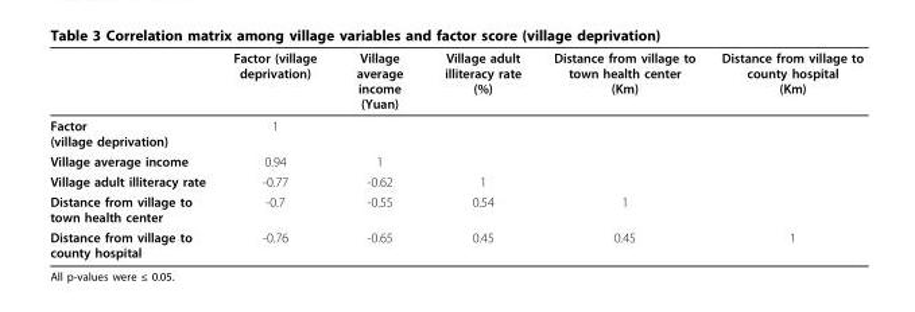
<table><thead><tr><td></td><td>Factor (village deprivation)</td><td>Village average income (Yuan)</td><td>Village adult illiteracy rate (%)</td><td>Distance from village to town health center (Km)</td><td>Distance from village to county hospital (Km)</td></tr></thead><tbody><tr><td>Factor (village deprivation)</td><td>1</td><td></td><td></td><td></td><td></td></tr><tr><td>Village average income</td><td>0.94</td><td>1</td><td></td><td></td><td></td></tr><tr><td>Village adult illiteracy rate</td><td>-0.77</td><td>-0.62</td><td>1</td><td></td><td></td></tr><tr><td>Distance from village to town health center</td><td>-0.7</td><td>-0.55</td><td>0.54</td><td>1</td><td></td></tr><tr><td>Distance from village to county hospital</td><td>-0.76</td><td>-0.65</td><td>0.45</td><td>0.45</td><td>1</td></tr></tbody></table>